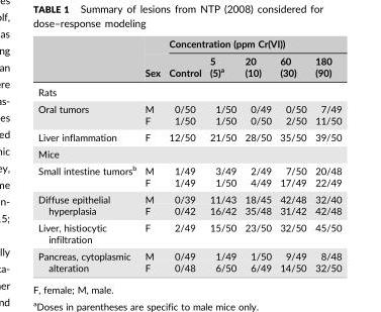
<table><thead><tr><td rowspan="2"></td><td rowspan="2">Sex</td><td colspan="5">Concentration (ppm Cr(VI))</td></tr><tr><td>Control</td><td>5 (5)<sup>a</sup></td><td>20 (10)</td><td>60 (30)</td><td>180 (90)</td></tr></thead><tbody><tr><td colspan="7">Rats</td></tr><tr><td rowspan="2">Oral tumors</td><td>M</td><td>0/50</td><td>1/50</td><td>0/49</td><td>0/50</td><td>7/49</td></tr><tr><td>F</td><td>1/50</td><td>1/50</td><td>0/50</td><td>2/50</td><td>11/50</td></tr><tr><td>Liver inflammation</td><td>F</td><td>12/50</td><td>21/50</td><td>28/50</td><td>35/50</td><td>39/50</td></tr><tr><td colspan="7">Mice</td></tr><tr><td rowspan="2">Small intestine tumors<sup>b</sup></td><td>M</td><td>1/49</td><td>3/49</td><td>2/49</td><td>7/50</td><td>20/48</td></tr><tr><td>F</td><td>1/49</td><td>1/50</td><td>4/49</td><td>17/49</td><td>22/49</td></tr><tr><td rowspan="2">Diffuse epithelial hyperplasia</td><td>M</td><td>0/39</td><td>11/43</td><td>18/45</td><td>42/48</td><td>32/40</td></tr><tr><td>F</td><td>0/42</td><td>16/42</td><td>35/48</td><td>31/42</td><td>42/48</td></tr><tr><td>Liver, histiocytic infiltration</td><td>F</td><td>2/49</td><td>15/50</td><td>23/50</td><td>32/50</td><td>45/50</td></tr><tr><td rowspan="2">Pancreas, cytoplasmic alteration</td><td>M</td><td>0/49</td><td>1/49</td><td>1/50</td><td>9/49</td><td>8/48</td></tr><tr><td>F</td><td>0/48</td><td>6/50</td><td>6/49</td><td>14/50</td><td>32/50</td></tr></tbody></table>